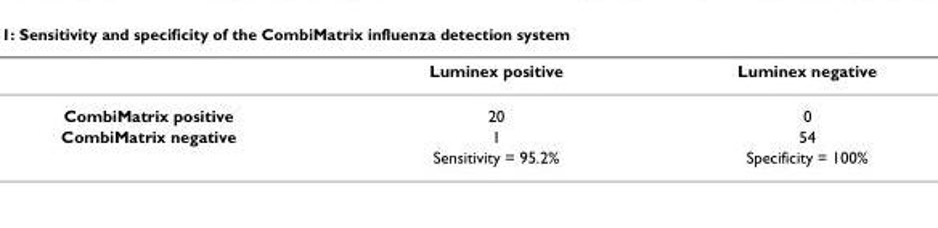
<table><thead><tr><td></td><td>Luminex positive</td><td>Luminex negative</td></tr></thead><tbody><tr><td>CombiMatrix positive</td><td>20</td><td>0</td></tr><tr><td rowspan="2">CombiMatrix negative</td><td>1</td><td>54</td></tr><tr><td>Sensitivity = 95.2%</td><td>Specificity = 100%</td></tr></tbody></table>